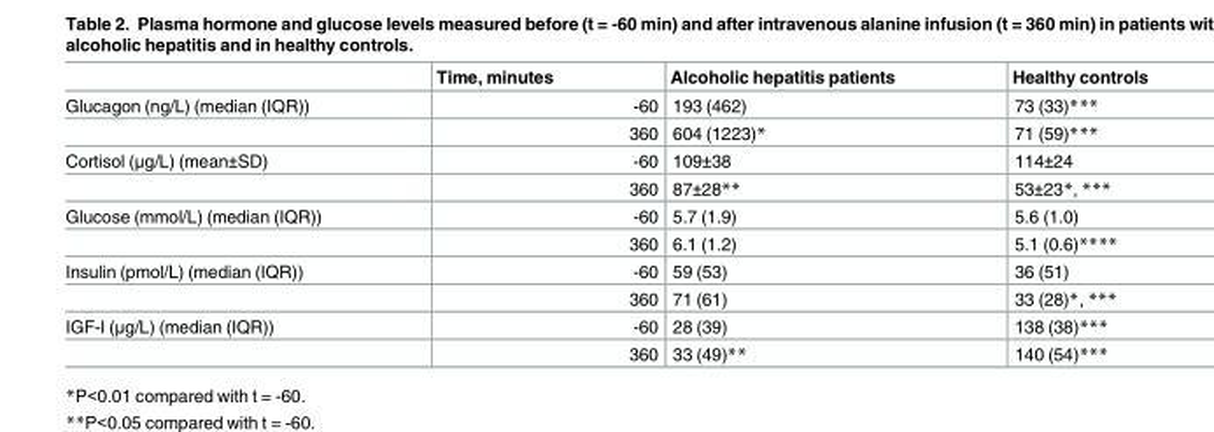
<table><thead><tr><td></td><td>Time, minutes</td><td>Alcoholic hepatitis patients</td><td>Healthy controls</td></tr></thead><tbody><tr><td rowspan="2">Glucagon (ng/L) (median (IQR))</td><td>-60</td><td>193 (462)</td><td>73 (33)***</td></tr><tr><td>360</td><td>604 (1223)*</td><td>71 (59)***</td></tr><tr><td rowspan="2">Cortisol (μg/L) (mean±SD)</td><td>-60</td><td>109±38</td><td>114±24</td></tr><tr><td>360</td><td>87±28**</td><td>53±23*, ***</td></tr><tr><td rowspan="2">Glucose (mmol/L) (median (IQR))</td><td>-60</td><td>5.7 (1.9)</td><td>5.6 (1.0)</td></tr><tr><td>360</td><td>6.1 (1.2)</td><td>5.1 (0.6)****</td></tr><tr><td rowspan="2">Insulin (pmol/L) (median (IQR))</td><td>-60</td><td>59 (53)</td><td>36 (51)</td></tr><tr><td>360</td><td>71 (61)</td><td>33 (28)*, ***</td></tr><tr><td rowspan="2">IGF-I (μg/L) (median (IQR))</td><td>-60</td><td>28 (39)</td><td>138 (38)***</td></tr><tr><td>360</td><td>33 (49)**</td><td>140 (54)***</td></tr></tbody></table>